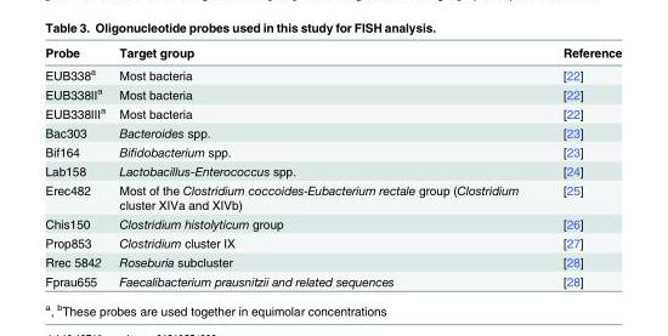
<table><thead><tr><td>Probe</td><td>Target group</td><td>Reference</td></tr></thead><tbody><tr><td>EUB338<sup>a</sup></td><td>Most bacteria</td><td>[22]</td></tr><tr><td>EUB338II<sup>a</sup></td><td>Most bacteria</td><td>[22]</td></tr><tr><td>EUB338III<sup>a</sup></td><td>Most bacteria</td><td>[22]</td></tr><tr><td>Bac303</td><td>Bacteroides spp.</td><td>[23]</td></tr><tr><td>Bif164</td><td>Bifidobacterium spp.</td><td>[23]</td></tr><tr><td>Lab158</td><td>Lactobacillus-Enterococcus spp.</td><td>[24]</td></tr><tr><td>Erec482</td><td>Most of the Clostridium coccoides-Eubacterium rectale group (Clostridium cluster XIVa and XIVb)</td><td>[25]</td></tr><tr><td>Chis150</td><td>Clostridium histolyticum group</td><td>[26]</td></tr><tr><td>Prop853</td><td>Clostridium cluster IX</td><td>[27]</td></tr><tr><td>Rrec 5842</td><td>Roseburia subcluster</td><td>[28]</td></tr><tr><td>Fprau655</td><td>Faecalibacterium prausnitzii and related sequences</td><td>[28]</td></tr></tbody></table>